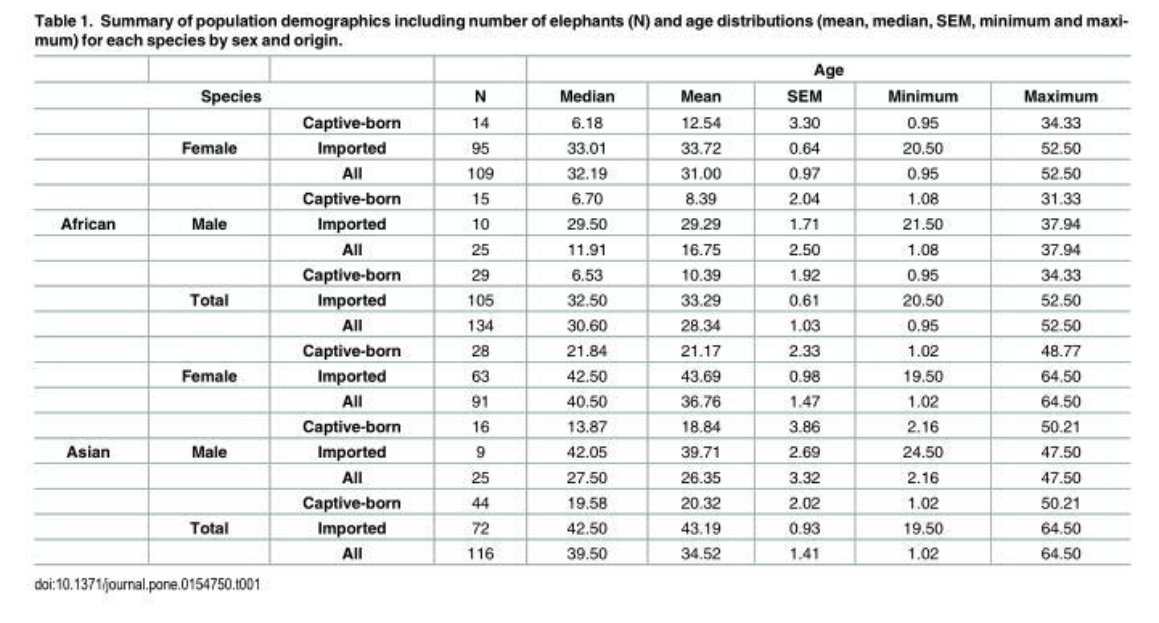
<table><thead><tr><td></td><td></td><td></td><td rowspan="2">N</td><td colspan="5">Age</td></tr><tr><td colspan="3">Species</td><td>Median</td><td>Mean</td><td>SEM</td><td>Minimum</td><td>Maximum</td></tr></thead><tbody><tr><td></td><td></td><td>Captive-born</td><td>14</td><td>6.18</td><td>12.54</td><td>3.30</td><td>0.95</td><td>34.33</td></tr><tr><td></td><td>Female</td><td>Imported</td><td>95</td><td>33.01</td><td>33.72</td><td>0.64</td><td>20.50</td><td>52.50</td></tr><tr><td></td><td></td><td>All</td><td>109</td><td>32.19</td><td>31.00</td><td>0.97</td><td>0.95</td><td>52.50</td></tr><tr><td></td><td></td><td>Captive-born</td><td>15</td><td>6.70</td><td>8.39</td><td>2.04</td><td>1.08</td><td>31.33</td></tr><tr><td rowspan="9">African</td><td>Male</td><td>Imported</td><td>10</td><td>29.50</td><td>29.29</td><td>1.71</td><td>21.50</td><td>37.94</td></tr><tr><td></td><td>All</td><td>25</td><td>11.91</td><td>16.75</td><td>2.50</td><td>1.08</td><td>37.94</td></tr><tr><td></td><td>Captive-born</td><td>29</td><td>6.53</td><td>10.39</td><td>1.92</td><td>0.95</td><td>34.33</td></tr><tr><td>Total</td><td>Imported</td><td>105</td><td>32.50</td><td>33.29</td><td>0.61</td><td>20.50</td><td>52.50</td></tr><tr><td></td><td>All</td><td>134</td><td>30.60</td><td>28.34</td><td>1.03</td><td>0.95</td><td>52.50</td></tr><tr><td></td><td>Captive-born</td><td>28</td><td>21.84</td><td>21.17</td><td>2.33</td><td>1.02</td><td>48.77</td></tr><tr><td>Female</td><td>Imported</td><td>63</td><td>42.50</td><td>43.69</td><td>0.98</td><td>19.50</td><td>64.50</td></tr><tr><td></td><td>All</td><td>91</td><td>40.50</td><td>36.76</td><td>1.47</td><td>1.02</td><td>64.50</td></tr><tr><td></td><td>Captive-born</td><td>16</td><td>13.87</td><td>18.84</td><td>3.86</td><td>2.16</td><td>50.21</td></tr><tr><td rowspan="5">Asian</td><td>Male</td><td>Imported</td><td>9</td><td>42.05</td><td>39.71</td><td>2.69</td><td>24.50</td><td>47.50</td></tr><tr><td></td><td>All</td><td>25</td><td>27.50</td><td>26.35</td><td>3.32</td><td>2.16</td><td>47.50</td></tr><tr><td></td><td>Captive-born</td><td>44</td><td>19.58</td><td>20.32</td><td>2.02</td><td>1.02</td><td>50.21</td></tr><tr><td>Total</td><td>Imported</td><td>72</td><td>42.50</td><td>43.19</td><td>0.93</td><td>19.50</td><td>64.50</td></tr><tr><td></td><td>All</td><td>116</td><td>39.50</td><td>34.52</td><td>1.41</td><td>1.02</td><td>64.50</td></tr></tbody></table>